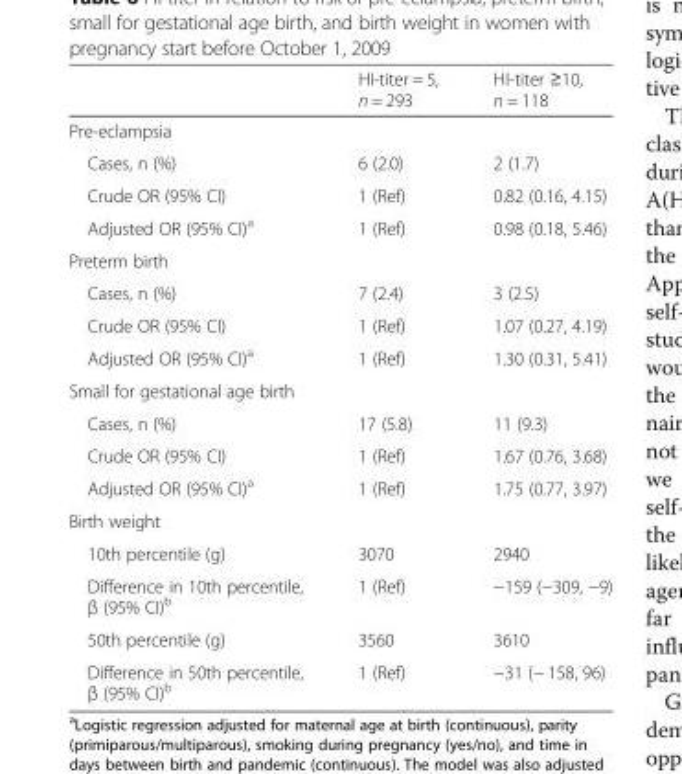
<table><thead><tr><td></td><td>HI-titer = 5, n = 293</td><td>HI-titer ≥10, n = 118</td></tr></thead><tbody><tr><td colspan="3">Pre-eclampsia</td></tr><tr><td>Cases, n (%)</td><td>6 (2.0)</td><td>2 (1.7)</td></tr><tr><td>Crude OR (95% CI)</td><td>1 (Ref)</td><td>0.82 (0.16, 4.15)</td></tr><tr><td>Adjusted OR (95% CI)<sup>a</sup></td><td>1 (Ref)</td><td>0.98 (0.18, 5.46)</td></tr><tr><td colspan="3">Preterm birth</td></tr><tr><td>Cases, n (%)</td><td>7 (2.4)</td><td>3 (2.5)</td></tr><tr><td>Crude OR (95% CI)</td><td>1 (Ref)</td><td>1.07 (0.27, 4.19)</td></tr><tr><td>Adjusted OR (95% CI)<sup>a</sup></td><td>1 (Ref)</td><td>1.30 (0.31, 5.41)</td></tr><tr><td colspan="3">Small for gestational age birth</td></tr><tr><td>Cases, n (%)</td><td>17 (5.8)</td><td>11 (9.3)</td></tr><tr><td>Crude OR (95% CI)</td><td>1 (Ref)</td><td>1.67 (0.76, 3.68)</td></tr><tr><td>Adjusted OR (95% CI)<sup>a</sup></td><td>1 (Ref)</td><td>1.75 (0.77, 3.97)</td></tr><tr><td colspan="3">Birth weight</td></tr><tr><td>10th percentile (g)</td><td>3070</td><td>2940</td></tr><tr><td>Difference in 10th percentile, β (95% CI)<sup>b</sup></td><td>1 (Ref)</td><td>−159 (−309, −9)</td></tr><tr><td>50th percentile (g)</td><td>3560</td><td>3610</td></tr><tr><td>Difference in 50th percentile, β (95% CI)<sup>b</sup></td><td>1 (Ref)</td><td>−31 (− 158, 96)</td></tr></tbody></table>